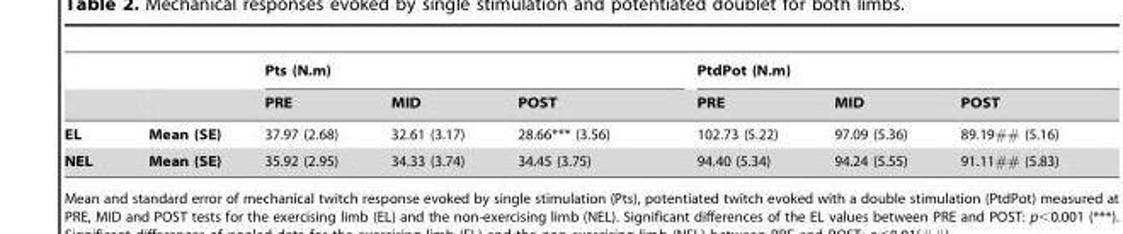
<table><thead><tr><td rowspan="2"></td><td rowspan="2"></td><td colspan="3">Pts (N.m)</td><td colspan="3">PtdPot (N.m)</td></tr><tr><td>PRE</td><td>MID</td><td>POST</td><td>PRE</td><td>MID</td><td>POST</td></tr></thead><tbody><tr><td>EL</td><td>Mean (SE)</td><td>37.97 (2.68)</td><td>32.61 (3.17)</td><td>28.66*** (3.56)</td><td>102.73 (5.22)</td><td>97.09 (5.36)</td><td>89.19## (5.16)</td></tr><tr><td>NEL</td><td>Mean (SE)</td><td>35.92 (2.95)</td><td>34.33 (3.74)</td><td>34.45 (3.75)</td><td>94.40 (5.34)</td><td>94.24 (5.55)</td><td>91.11## (5.83)</td></tr></tbody></table>